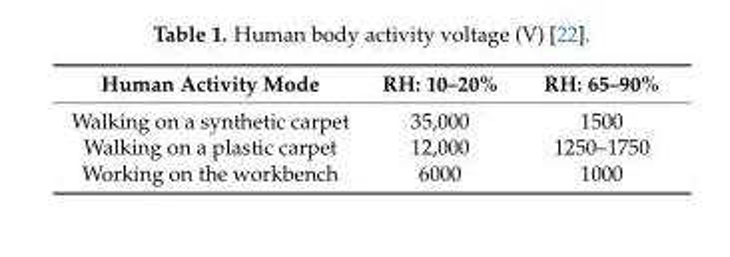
<table><thead><tr><td>Human Activity Mode</td><td>RH: 10–20%</td><td>RH: 65–90%</td></tr></thead><tbody><tr><td>Walking on a synthetic carpet</td><td>35,000</td><td>1500</td></tr><tr><td>Walking on a plastic carpet</td><td>12,000</td><td>1250–1750</td></tr><tr><td>Working on the workbench</td><td>6000</td><td>1000</td></tr></tbody></table>